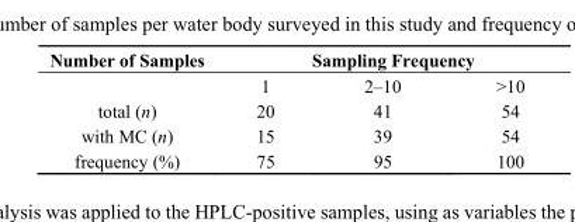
<table><thead><tr><td rowspan="2">Number of Samples</td><td colspan="3">Sampling Frequency</td></tr><tr><td>1</td><td>2–10</td><td>&gt;10</td></tr></thead><tbody><tr><td>total (n)</td><td>20</td><td>41</td><td>54</td></tr><tr><td>with MC (n)</td><td>15</td><td>39</td><td>54</td></tr><tr><td>frequency (%)</td><td>75</td><td>95</td><td>100</td></tr></tbody></table>